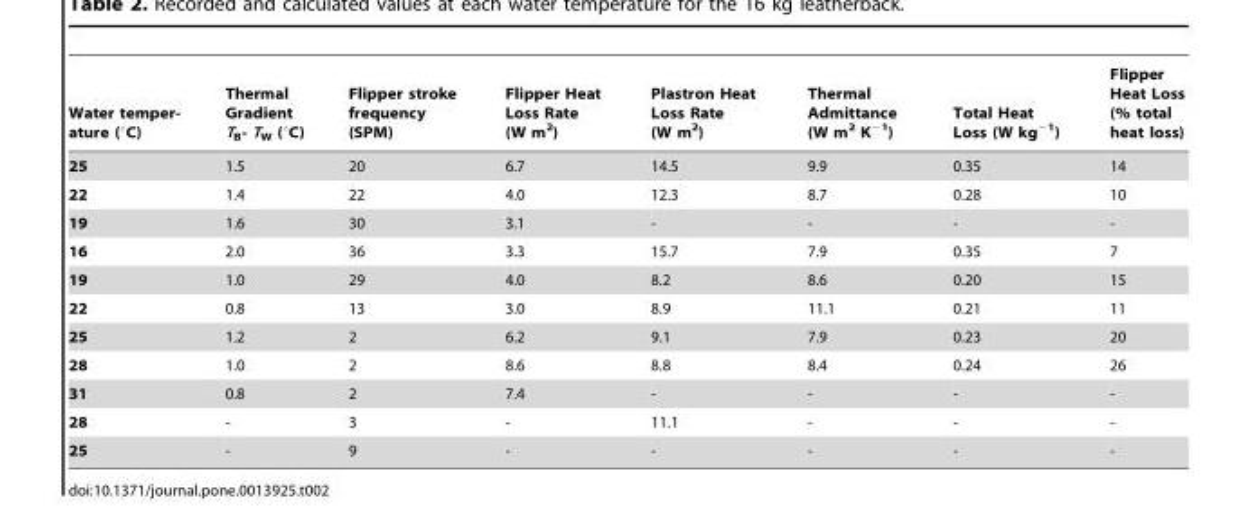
<table><thead><tr><td>Water temper- ature (uC)</td><td>Thermal Gradient T<sub>B</sub>- T<sub>W</sub> (°C)</td><td>Flipper stroke frequency (SPM)</td><td>Flipper Heat Loss Rate (W m<sup>2</sup>)</td><td>Plastron Heat Loss Rate (W m<sup>2</sup>)</td><td>Thermal Admittance (W m<sup>2</sup> K<sup>−1</sup>)</td><td>Total Heat Loss (W kg<sup>−1</sup>)</td><td>Flipper Heat Loss (% total heat loss)</td></tr></thead><tbody><tr><td>25</td><td>1.5</td><td>20</td><td>6.7</td><td>14.5</td><td>9.9</td><td>0.35</td><td>14</td></tr><tr><td>22</td><td>1.4</td><td>22</td><td>4.0</td><td>12.3</td><td>8.7</td><td>0.28</td><td>10</td></tr><tr><td>19</td><td>1.6</td><td>30</td><td>3.1</td><td>-</td><td>-</td><td>-</td><td>-</td></tr><tr><td>16</td><td>2.0</td><td>36</td><td>3.3</td><td>15.7</td><td>7.9</td><td>0.35</td><td>7</td></tr><tr><td>19</td><td>1.0</td><td>29</td><td>4.0</td><td>8.2</td><td>8.6</td><td>0.20</td><td>15</td></tr><tr><td>22</td><td>0.8</td><td>13</td><td>3.0</td><td>8.9</td><td>11.1</td><td>0.21</td><td>11</td></tr><tr><td>25</td><td>1.2</td><td>2</td><td>6.2</td><td>9.1</td><td>7.9</td><td>0.23</td><td>20</td></tr><tr><td>28</td><td>1.0</td><td>2</td><td>8.6</td><td>8.8</td><td>8.4</td><td>0.24</td><td>26</td></tr><tr><td>31</td><td>0.8</td><td>2</td><td>7.4</td><td>-</td><td>-</td><td>-</td><td>-</td></tr><tr><td>28</td><td>-</td><td>3</td><td>-</td><td>11.1</td><td>-</td><td>-</td><td>-</td></tr><tr><td>25</td><td>-</td><td>9</td><td>-</td><td>-</td><td>-</td><td>-</td><td>-</td></tr></tbody></table>